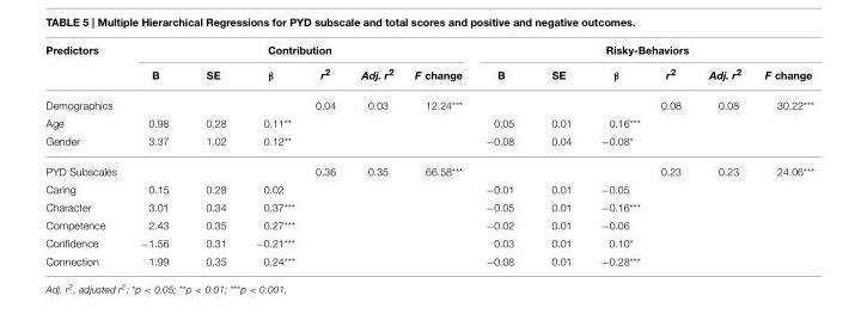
<table><thead><tr><td rowspan="2">Predictors</td><td colspan="6">Contribution</td><td colspan="6">Risky-Behaviors</td></tr><tr><td>B</td><td>SE</td><td>β</td><td>r<sup>2</sup></td><td>Adj. r<sup>2</sup></td><td>F change</td><td>B</td><td>SE</td><td>β</td><td>r<sup>2</sup></td><td>Adj. r<sup>2</sup></td><td>F change</td></tr></thead><tbody><tr><td>Demographics</td><td></td><td></td><td></td><td>0.04</td><td>0.03</td><td>12.24***</td><td></td><td></td><td></td><td>0.08</td><td>0.08</td><td>30.22***</td></tr><tr><td>Age</td><td>0.98</td><td>0.28</td><td>0.11**</td><td></td><td></td><td></td><td>0.05</td><td>0.01</td><td>0.16***</td><td></td><td></td><td></td></tr><tr><td>Gender</td><td>3.37</td><td>1.02</td><td>0.12**</td><td></td><td></td><td></td><td>−0.08</td><td>0.04</td><td>−0.08*</td><td></td><td></td><td></td></tr><tr><td>PYD Subscales</td><td></td><td></td><td></td><td>0.36</td><td>0.35</td><td>66.58***</td><td></td><td></td><td></td><td>0.23</td><td>0.23</td><td>24.06***</td></tr><tr><td>Caring</td><td>0.15</td><td>0.28</td><td>0.02</td><td></td><td></td><td></td><td>−0.01</td><td>0.01</td><td>−0.05</td><td></td><td></td><td></td></tr><tr><td>Character</td><td>3.01</td><td>0.34</td><td>0.37***</td><td></td><td></td><td></td><td>−0.05</td><td>0.01</td><td>−0.16***</td><td></td><td></td><td></td></tr><tr><td>Competence</td><td>2.43</td><td>0.35</td><td>0.27***</td><td></td><td></td><td></td><td>−0.02</td><td>0.01</td><td>−0.06</td><td></td><td></td><td></td></tr><tr><td>Confidence</td><td>−1.56</td><td>0.31</td><td>−0.21***</td><td></td><td></td><td></td><td>0.03</td><td>0.01</td><td>0.10*</td><td></td><td></td><td></td></tr><tr><td>Connection</td><td>1.99</td><td>0.35</td><td>0.24***</td><td></td><td></td><td></td><td>−0.08</td><td>0.01</td><td>−0.28***</td><td></td><td></td><td></td></tr></tbody></table>